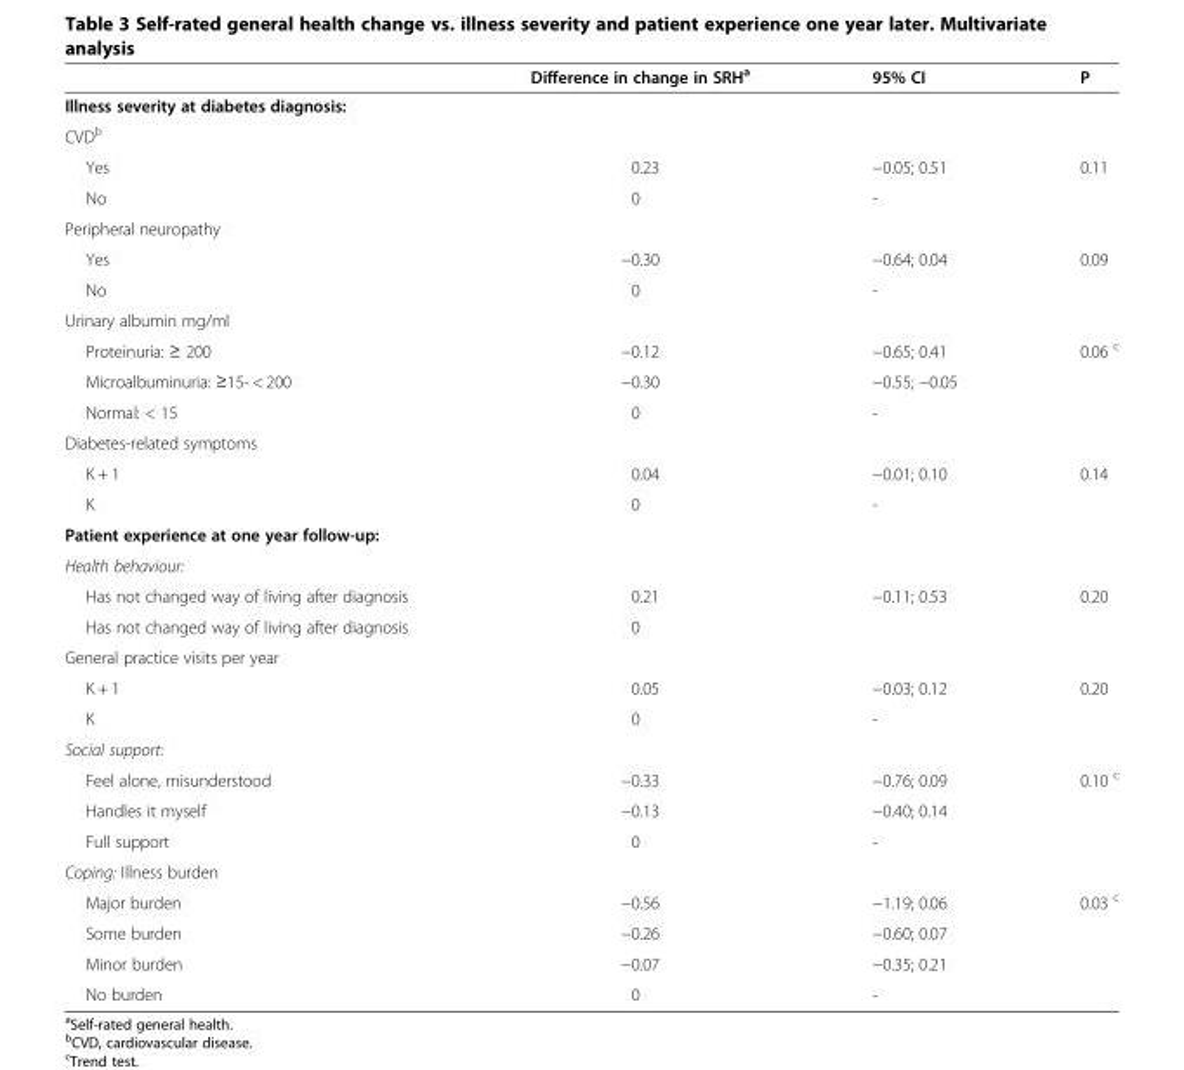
<table><thead><tr><td></td><td>Difference in change in SRH<sup>a</sup></td><td>95% CI</td><td>P</td></tr></thead><tbody><tr><td colspan="4">Illness severity at diabetes diagnosis:</td></tr><tr><td colspan="4">CVD<sup>b</sup></td></tr><tr><td>Yes</td><td>0.23</td><td>−0.05; 0.51</td><td rowspan="2">0.11</td></tr><tr><td>No</td><td>0</td><td>-</td></tr><tr><td colspan="4">Peripheral neuropathy</td></tr><tr><td>Yes</td><td>−0.30</td><td>−0.64; 0.04</td><td rowspan="2">0.09</td></tr><tr><td>No</td><td>0</td><td>-</td></tr><tr><td colspan="4">Urinary albumin mg/ml</td></tr><tr><td>Proteinuria: ≥ 200</td><td>−0.12</td><td>−0.65; 0.41</td><td rowspan="3">0.06 <sup>c</sup></td></tr><tr><td>Microalbuminuria: ≥15- &lt; 200</td><td>−0.30</td><td>−0.55; −0.05</td></tr><tr><td>Normal: &lt; 15</td><td>0</td><td>-</td></tr><tr><td colspan="4">Diabetes-related symptoms</td></tr><tr><td>K + 1</td><td>0.04</td><td>−0.01; 0.10</td><td rowspan="2">0.14</td></tr><tr><td>K</td><td>0</td><td>-</td></tr><tr><td colspan="4">Patient experience at one year follow-up:</td></tr><tr><td colspan="4">Health behaviour:</td></tr><tr><td>Has not changed way of living after diagnosis</td><td>0.21</td><td rowspan="2">−0.11; 0.53</td><td rowspan="2">0.20</td></tr><tr><td>Has not changed way of living after diagnosis</td><td>0</td></tr><tr><td colspan="4">General practice visits per year</td></tr><tr><td>K + 1</td><td>0.05</td><td>−0.03; 0.12</td><td rowspan="2">0.20</td></tr><tr><td>K</td><td>0</td><td>-</td></tr><tr><td colspan="4">Social support:</td></tr><tr><td>Feel alone, misunderstood</td><td>−0.33</td><td>−0.76; 0.09</td><td rowspan="3">0.10 <sup>c</sup></td></tr><tr><td>Handles it myself</td><td>−0.13</td><td>−0.40; 0.14</td></tr><tr><td>Full support</td><td>0</td><td>-</td></tr><tr><td colspan="4">Coping: Illness burden</td></tr><tr><td>Major burden</td><td>−0.56</td><td>−1.19; 0.06</td><td rowspan="4">0.03 <sup>c</sup></td></tr><tr><td>Some burden</td><td>−0.26</td><td>−0.60; 0.07</td></tr><tr><td>Minor burden</td><td>−0.07</td><td>−0.35; 0.21</td></tr><tr><td>No burden</td><td>0</td><td>-</td></tr></tbody></table>